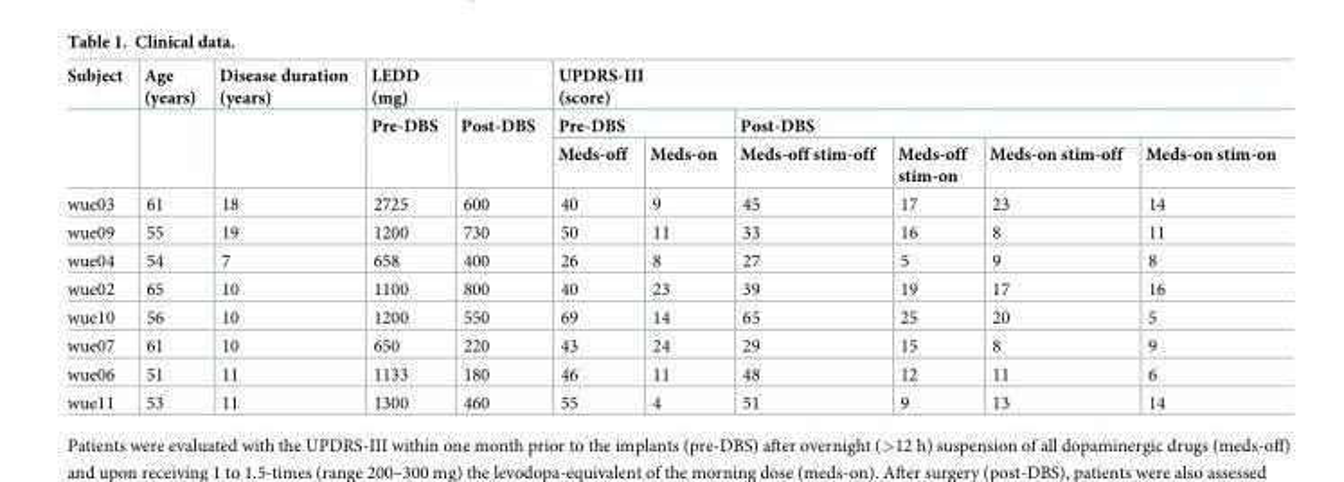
<table><thead><tr><td rowspan="3">Subject</td><td rowspan="3">Age (years)</td><td rowspan="3">Disease duration (years)</td><td colspan="2">LEDD (mg)</td><td colspan="6">UPDRS-III (score)</td></tr><tr><td rowspan="2">Pre-DBS</td><td rowspan="2">Post-DBS</td><td colspan="2">Pre-DBS</td><td colspan="4">Post-DBS</td></tr><tr><td>Meds-off</td><td>Meds-on</td><td>Meds-off stim-off</td><td>Meds-off stim-on</td><td>Meds-on stim-off</td><td>Meds-on stim-on</td></tr></thead><tbody><tr><td>wue03</td><td>61</td><td>18</td><td>2725</td><td>600</td><td>40</td><td>9</td><td>45</td><td>17</td><td>23</td><td>14</td></tr><tr><td>wue09</td><td>55</td><td>19</td><td>1200</td><td>730</td><td>50</td><td>11</td><td>33</td><td>16</td><td>8</td><td>11</td></tr><tr><td>wue04</td><td>54</td><td>7</td><td>658</td><td>400</td><td>26</td><td>8</td><td>27</td><td>5</td><td>9</td><td>8</td></tr><tr><td>wue02</td><td>65</td><td>10</td><td>1100</td><td>800</td><td>40</td><td>23</td><td>39</td><td>19</td><td>17</td><td>16</td></tr><tr><td>wue10</td><td>56</td><td>10</td><td>1200</td><td>550</td><td>69</td><td>14</td><td>65</td><td>25</td><td>20</td><td>5</td></tr><tr><td>wue07</td><td>61</td><td>10</td><td>650</td><td>220</td><td>43</td><td>24</td><td>29</td><td>15</td><td>8</td><td>9</td></tr><tr><td>wue06</td><td>51</td><td>11</td><td>1133</td><td>180</td><td>46</td><td>11</td><td>48</td><td>12</td><td>11</td><td>6</td></tr><tr><td>wue11</td><td>53</td><td>11</td><td>1300</td><td>460</td><td>55</td><td>4</td><td>51</td><td>9</td><td>13</td><td>14</td></tr></tbody></table>